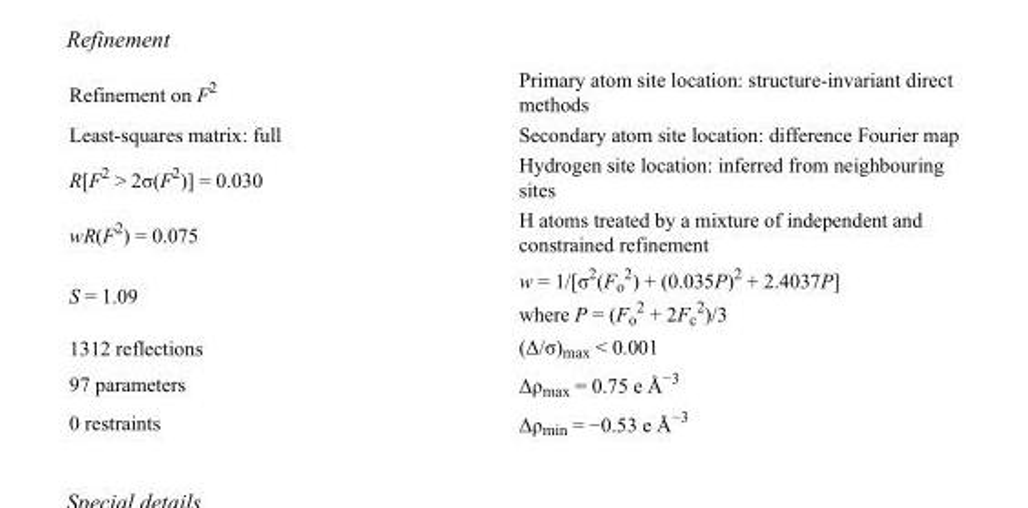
<table><tbody><tr><td>Refinement on F<sup>2</sup></td><td>Primary atom site location: structure-invariant direct methods</td></tr><tr><td>Least-squares matrix: full</td><td>Secondary atom site location: difference Fourier map</td></tr><tr><td>R[F<sup>2</sup> &gt; 2σ(F<sup>2</sup>)] = 0.030</td><td>Hydrogen site location: inferred from neighbouring sites</td></tr><tr><td>wR(F<sup>2</sup>) = 0.075</td><td>H atoms treated by a mixture of independent and constrained refinement</td></tr><tr><td>S = 1.09</td><td>w = 1/[σ<sup>2</sup>(F<sub>o</sub> <sup>2</sup>) + (0.035P)<sup>2</sup> + 2.4037P] where P = (F<sub>o</sub> <sup>2</sup> + 2F<sub>c</sub> <sup>2</sup>)/3</td></tr><tr><td>1312 reflections</td><td>(Δ/σ)<sub>max</sub> &lt; 0.001</td></tr><tr><td>97 parameters</td><td>Δρ<sub>max</sub> = 0.75 e Å<sup>−3</sup></td></tr><tr><td>0 restraints</td><td>Δρ<sub>min</sub> = −0.53 e Å<sup>−3</sup></td></tr></tbody></table>